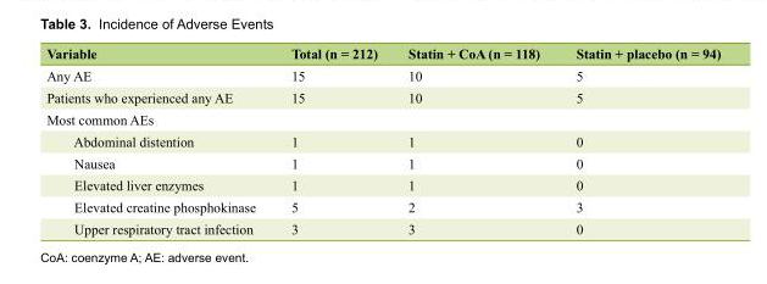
<table><thead><tr><td>Variable</td><td>Total (n = 212)</td><td>Statin + CoA (n = 118)</td><td>Statin + placebo (n = 94)</td></tr></thead><tbody><tr><td>Any AE</td><td>15</td><td>10</td><td>5</td></tr><tr><td>Patients who experienced any AE</td><td>15</td><td>10</td><td>5</td></tr><tr><td colspan="4">Most common AEs</td></tr><tr><td>Abdominal distention</td><td>1</td><td>1</td><td>0</td></tr><tr><td>Nausea</td><td>1</td><td>1</td><td>0</td></tr><tr><td>Elevated liver enzymes</td><td>1</td><td>1</td><td>0</td></tr><tr><td>Elevated creatine phosphokinase</td><td>5</td><td>2</td><td>3</td></tr><tr><td>Upper respiratory tract infection</td><td>3</td><td>3</td><td>0</td></tr></tbody></table>